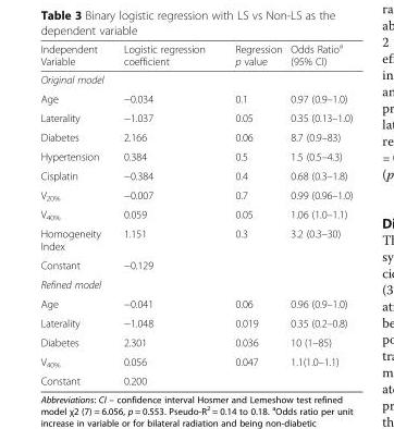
<table><thead><tr><td>Independent Variable</td><td>Logistic regression coefficient</td><td>Regression p value</td><td>Odds Ratio<sup>a</sup> (95% CI)</td></tr></thead><tbody><tr><td colspan="4">Original model</td></tr><tr><td>Age</td><td>−0.034</td><td>0.1</td><td>0.97 (0.9–1.0)</td></tr><tr><td>Laterality</td><td>−1.037</td><td>0.05</td><td>0.35 (0.13–1.0)</td></tr><tr><td>Diabetes</td><td>2.166</td><td>0.06</td><td>8.7 (0.9–83)</td></tr><tr><td>Hypertension</td><td>0.384</td><td>0.5</td><td>1.5 (0.5–4.3)</td></tr><tr><td>Cisplatin</td><td>−0.384</td><td>0.4</td><td>0.68 (0.3–1.8)</td></tr><tr><td>V<sub>20%</sub></td><td>−0.007</td><td>0.7</td><td>0.99 (0.96–1.0)</td></tr><tr><td>V<sub>40%</sub></td><td>0.059</td><td>0.05</td><td>1.06 (1.0–1.1)</td></tr><tr><td>Homogeneity Index</td><td>1.151</td><td>0.3</td><td>3.2 (0.3–30)</td></tr><tr><td>Constant</td><td>−0.129</td><td></td><td></td></tr><tr><td colspan="4">Refined model</td></tr><tr><td>Age</td><td>−0.041</td><td>0.06</td><td>0.96 (0.9–1.0)</td></tr><tr><td>Laterality</td><td>−1.048</td><td>0.019</td><td>0.35 (0.2–0.8)</td></tr><tr><td>Diabetes</td><td>2.301</td><td>0.036</td><td>10 (1–85)</td></tr><tr><td>V<sub>40%</sub></td><td>0.056</td><td>0.047</td><td>1.1(1.0–1.1)</td></tr><tr><td>Constant</td><td>0.200</td><td></td><td></td></tr></tbody></table>